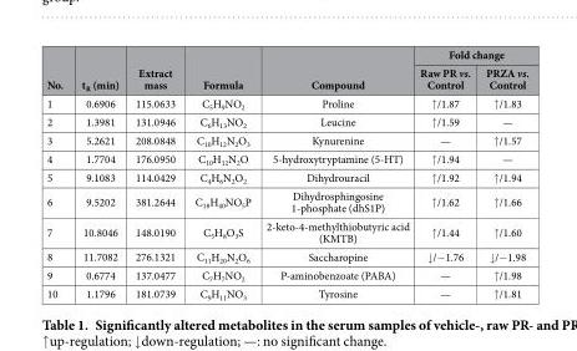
<table><thead><tr><td rowspan="2">No.</td><td rowspan="2">t<sub>R</sub> (min)</td><td rowspan="2">Extract mass</td><td rowspan="2">Formula</td><td rowspan="2">Compound</td><td colspan="2">Fold change</td></tr><tr><td>Raw PR vs. Control</td><td>PRZA vs. Control</td></tr></thead><tbody><tr><td>1</td><td>0.6906</td><td>115.0633</td><td>C<sub>5</sub>H<sub>9</sub>NO<sub>2</sub></td><td>Proline</td><td>↑ /1.87</td><td>↑ /1.83</td></tr><tr><td>2</td><td>1.3981</td><td>131.0946</td><td>C<sub>6</sub>H<sub>13</sub>NO<sub>2</sub></td><td>Leucine</td><td>↑ /1.59</td><td>—</td></tr><tr><td>3</td><td>5.2621</td><td>208.0848</td><td>C<sub>10</sub>H<sub>12</sub>N<sub>2</sub>O<sub>3</sub></td><td>Kynurenine</td><td>—</td><td>↑ /1.57</td></tr><tr><td>4</td><td>1.7704</td><td>176.0950</td><td>C<sub>10</sub>H<sub>12</sub>N<sub>2</sub>O</td><td>5-hydroxytryptamine (5-HT)</td><td>↑ /1.94</td><td>—</td></tr><tr><td>5</td><td>9.1083</td><td>114.0429</td><td>C<sub>4</sub>H<sub>6</sub>N<sub>2</sub>O<sub>2</sub></td><td>Dihydrouracil</td><td>↑ /1.92</td><td>↑ /1.94</td></tr><tr><td>6</td><td>9.5202</td><td>381.2644</td><td>C<sub>18</sub>H<sub>40</sub>NO<sub>5</sub>P</td><td>Dihydrosphingosine 1-phosphate (dhS1P)</td><td>↑ /1.62</td><td>↑ /1.66</td></tr><tr><td>7</td><td>10.8046</td><td>148.0190</td><td>C<sub>5</sub>H<sub>8</sub>O<sub>3</sub>S</td><td>2-keto-4-methylthiobutyric acid (KMTB)</td><td>↑ /1.44</td><td>↑ /1.60</td></tr><tr><td>8</td><td>11.7082</td><td>276.1321</td><td>C<sub>11</sub>H<sub>20</sub>N<sub>2</sub>O<sub>6</sub></td><td>Saccharopine</td><td>↓ /− 1.76</td><td>↓ /− 1.98</td></tr><tr><td>9</td><td>0.6774</td><td>137.0477</td><td>C<sub>7</sub>H<sub>7</sub>NO<sub>2</sub></td><td>P-aminobenzoate (PABA)</td><td>—</td><td>↑ /1.98</td></tr><tr><td>10</td><td>1.1796</td><td>181.0739</td><td>C<sub>9</sub>H<sub>11</sub>NO<sub>3</sub></td><td>Tyrosine</td><td>—</td><td>↑ /1.81</td></tr></tbody></table>